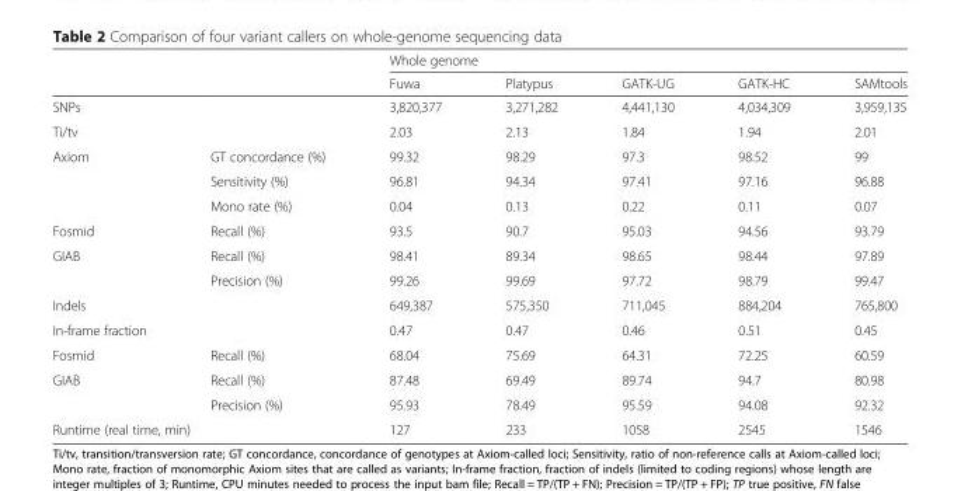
<table><thead><tr><td rowspan="2"></td><td rowspan="2"></td><td colspan="5">Whole genome</td></tr><tr><td>Fuwa</td><td>Platypus</td><td>GATK-UG</td><td>GATK-HC</td><td>SAMtools</td></tr></thead><tbody><tr><td colspan="2">SNPs</td><td>3,820,377</td><td>3,271,282</td><td>4,441,130</td><td>4,034,309</td><td>3,959,135</td></tr><tr><td>Ti/tv</td><td></td><td>2.03</td><td>2.13</td><td>1.84</td><td>1.94</td><td>2.01</td></tr><tr><td rowspan="3">Axiom</td><td>GT concordance (%)</td><td>99.32</td><td>98.29</td><td>97.3</td><td>98.52</td><td>99</td></tr><tr><td>Sensitivity (%)</td><td>96.81</td><td>94.34</td><td>97.41</td><td>97.16</td><td>96.88</td></tr><tr><td>Mono rate (%)</td><td>0.04</td><td>0.13</td><td>0.22</td><td>0.11</td><td>0.07</td></tr><tr><td>Fosmid</td><td>Recall (%)</td><td>93.5</td><td>90.7</td><td>95.03</td><td>94.56</td><td>93.79</td></tr><tr><td rowspan="2">GIAB</td><td>Recall (%)</td><td>98.41</td><td>89.34</td><td>98.65</td><td>98.44</td><td>97.89</td></tr><tr><td>Precision (%)</td><td>99.26</td><td>99.69</td><td>97.72</td><td>98.79</td><td>99.47</td></tr><tr><td colspan="2">Indels</td><td>649,387</td><td>575,350</td><td>711,045</td><td>884,204</td><td>765,800</td></tr><tr><td>In-frame fraction</td><td></td><td>0.47</td><td>0.47</td><td>0.46</td><td>0.51</td><td>0.45</td></tr><tr><td>Fosmid</td><td>Recall (%)</td><td>68.04</td><td>75.69</td><td>64.31</td><td>72.25</td><td>60.59</td></tr><tr><td rowspan="2">GIAB</td><td>Recall (%)</td><td>87.48</td><td>69.49</td><td>89.74</td><td>94.7</td><td>80.98</td></tr><tr><td>Precision (%)</td><td>95.93</td><td>78.49</td><td>95.59</td><td>94.08</td><td>92.32</td></tr><tr><td colspan="2">Runtime (real time, min)</td><td>127</td><td>233</td><td>1058</td><td>2545</td><td>1546</td></tr></tbody></table>